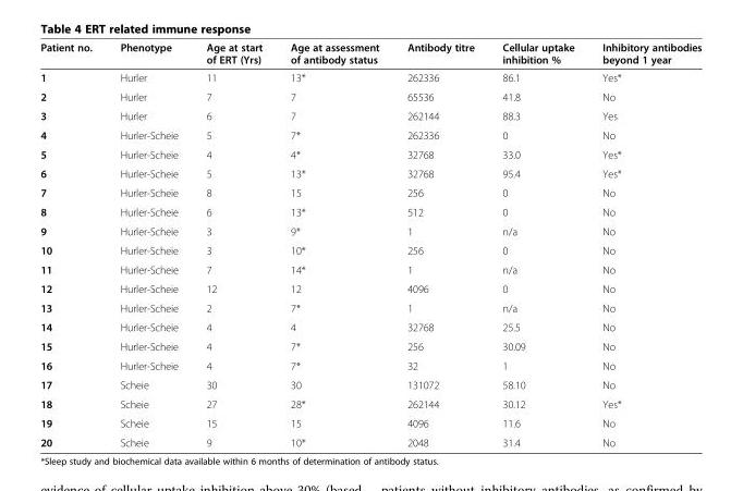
<table><thead><tr><td>Patient no.</td><td>Phenotype</td><td>Age at start of ERT (Yrs)</td><td>Age at assessment of antibody status</td><td>Antibody titre</td><td>Cellular uptake inhibition %</td><td>Inhibitory antibodies beyond 1 year</td></tr></thead><tbody><tr><td>1</td><td>Hurler</td><td>11</td><td>13*</td><td>262336</td><td>86.1</td><td>Yes*</td></tr><tr><td>2</td><td>Hurler</td><td>7</td><td>7</td><td>65536</td><td>41.8</td><td>No</td></tr><tr><td>3</td><td>Hurler</td><td>6</td><td>7</td><td>262144</td><td>88.3</td><td>Yes</td></tr><tr><td>4</td><td>Hurler-Scheie</td><td>5</td><td>7*</td><td>262336</td><td>0</td><td>No</td></tr><tr><td>5</td><td>Hurler-Scheie</td><td>4</td><td>4*</td><td>32768</td><td>33.0</td><td>Yes*</td></tr><tr><td>6</td><td>Hurler-Scheie</td><td>5</td><td>13*</td><td>32768</td><td>95.4</td><td>Yes*</td></tr><tr><td>7</td><td>Hurler-Scheie</td><td>8</td><td>15</td><td>256</td><td>0</td><td>No</td></tr><tr><td>8</td><td>Hurler-Scheie</td><td>6</td><td>13*</td><td>512</td><td>0</td><td>No</td></tr><tr><td>9</td><td>Hurler-Scheie</td><td>3</td><td>9*</td><td>1</td><td>n/a</td><td>No</td></tr><tr><td>10</td><td>Hurler-Scheie</td><td>3</td><td>10*</td><td>256</td><td>0</td><td>No</td></tr><tr><td>11</td><td>Hurler-Scheie</td><td>7</td><td>14*</td><td>1</td><td>n/a</td><td>No</td></tr><tr><td>12</td><td>Hurler-Scheie</td><td>12</td><td>12</td><td>4096</td><td>0</td><td>No</td></tr><tr><td>13</td><td>Hurler-Scheie</td><td>2</td><td>7*</td><td>1</td><td>n/a</td><td>No</td></tr><tr><td>14</td><td>Hurler-Scheie</td><td>4</td><td>4</td><td>32768</td><td>25.5</td><td>No</td></tr><tr><td>15</td><td>Hurler-Scheie</td><td>4</td><td>7*</td><td>256</td><td>30.09</td><td>No</td></tr><tr><td>16</td><td>Hurler-Scheie</td><td>4</td><td>7*</td><td>32</td><td>1</td><td>No</td></tr><tr><td>17</td><td>Scheie</td><td>30</td><td>30</td><td>131072</td><td>58.10</td><td>No</td></tr><tr><td>18</td><td>Scheie</td><td>27</td><td>28*</td><td>262144</td><td>30.12</td><td>Yes*</td></tr><tr><td>19</td><td>Scheie</td><td>15</td><td>15</td><td>4096</td><td>11.6</td><td>No</td></tr><tr><td>20</td><td>Scheie</td><td>9</td><td>10*</td><td>2048</td><td>31.4</td><td>No</td></tr></tbody></table>